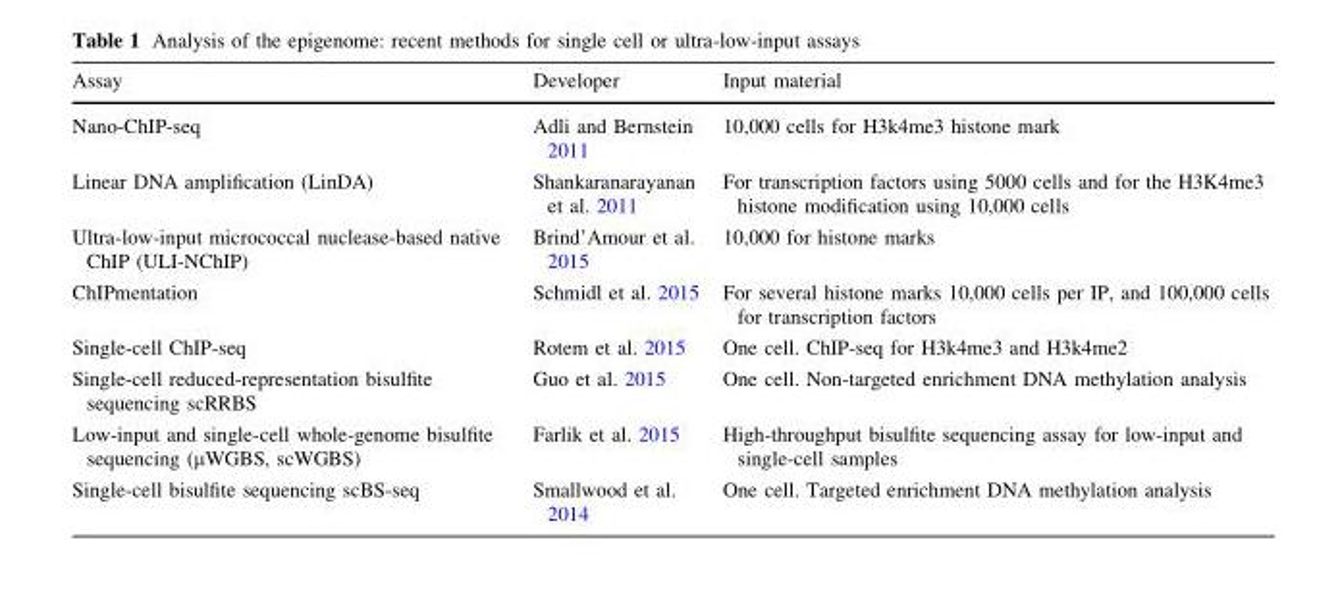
<table><thead><tr><td>Assay</td><td>Developer</td><td>Input material</td></tr></thead><tbody><tr><td>Nano-ChIP-seq</td><td>Adli and Bernstein 2011</td><td>10,000 cells for H3k4me3 histone mark</td></tr><tr><td>Linear DNA amplification (LinDA)</td><td>Shankaranarayanan et al. 2011</td><td>For transcription factors using 5000 cells and for the H3K4me3 histone modification using 10,000 cells</td></tr><tr><td>Ultra-low-input micrococcal nuclease-based native ChIP (ULI-NChIP)</td><td>Brind’Amour et al. 2015</td><td>10,000 for histone marks</td></tr><tr><td>ChIPmentation</td><td>Schmidl et al. 2015</td><td>For several histone marks 10,000 cells per IP, and 100,000 cells for transcription factors</td></tr><tr><td>Single-cell ChIP-seq</td><td>Rotem et al. 2015</td><td>One cell. ChIP-seq for H3k4me3 and H3k4me2</td></tr><tr><td>Single-cell reduced-representation bisulfite sequencing scRRBS</td><td>Guo et al. 2015</td><td>One cell. Non-targeted enrichment DNA methylation analysis</td></tr><tr><td>Low-input and single-cell whole-genome bisulfite sequencing (μWGBS, scWGBS)</td><td>Farlik et al. 2015</td><td>High-throughput bisulfite sequencing assay for low-input and single-cell samples</td></tr><tr><td>Single-cell bisulfite sequencing scBS-seq</td><td>Smallwood et al. 2014</td><td>One cell. Targeted enrichment DNA methylation analysis</td></tr></tbody></table>